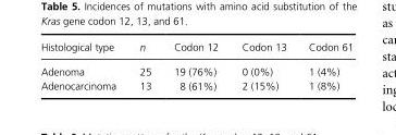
<table><thead><tr><td>Histological type</td><td>n</td><td>Codon 12</td><td>Codon 13</td><td>Codon 61</td></tr></thead><tbody><tr><td>Adenoma</td><td>25</td><td>19 (76%)</td><td>0 (0%)</td><td>1 (4%)</td></tr><tr><td>Adenocarcinoma</td><td>13</td><td>8 (61%)</td><td>2 (15%)</td><td>1 (8%)</td></tr></tbody></table>